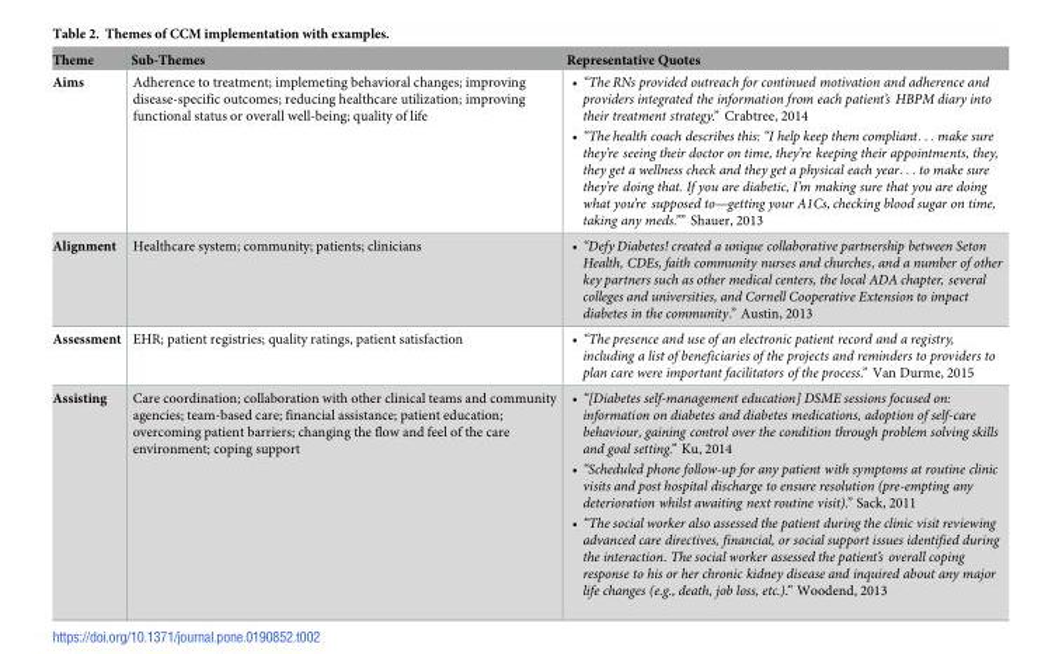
<table><thead><tr><td>Theme</td><td>Sub-Themes</td><td>Representative Quotes</td></tr></thead><tbody><tr><td>Aims</td><td>Adherence to treatment; implemeting behavioral changes; improving disease-specific outcomes; reducing healthcare utilization; improving functional status or overall well-being; quality of life</td><td>• “The RNs provided outreach for continued motivation and adherence and providers integrated the information from each patient’s HBPM diary into their treatment strategy.” Crabtree, 2014 • “The health coach describes this: “I help keep them compliant. . . make sure they’re seeing their doctor on time, they’re keeping their appointments, they, they get a wellness check and they get a physical each year. . . to make sure they’re doing that. If you are diabetic, I’m making sure that you are doing what you’re supposed to—getting your A1Cs, checking blood sugar on time, taking any meds.”” Shauer, 2013</td></tr><tr><td>Alignment</td><td>Healthcare system; community; patients; clinicians</td><td>• “Defy Diabetes! created a unique collaborative partnership between Seton Health, CDEs, faith community nurses and churches, and a number of other key partners such as other medical centers, the local ADA chapter, several colleges and universities, and Cornell Cooperative Extension to impact diabetes in the community.” Austin, 2013</td></tr><tr><td>Assessment</td><td>EHR; patient registries; quality ratings, patient satisfaction</td><td>• “The presence and use of an electronic patient record and a registry, including a list of beneficiaries of the projects and reminders to providers to plan care were important facilitators of the process.” Van Durme, 2015</td></tr><tr><td>Assisting</td><td>Care coordination; collaboration with other clinical teams and community agencies; team-based care; financial assistance; patient education; overcoming patient barriers; changing the flow and feel of the care environment; coping support</td><td>• “[Diabetes self-management education] DSME sessions focused on: information on diabetes and diabetes medications, adoption of self-care behaviour, gaining control over the condition through problem solving skills and goal setting.” Ku, 2014 • “Scheduled phone follow-up for any patient with symptoms at routine clinic visits and post hospital discharge to ensure resolution (pre-empting any deterioration whilst awaiting next routine visit).” Sack, 2011 • “The social worker also assessed the patient during the clinic visit reviewing advanced care directives, financial, or social support issues identified during the interaction. The social worker assessed the patient’s overall coping response to his or her chronic kidney disease and inquired about any major life changes (e.g., death, job loss, etc.).” Woodend, 2013</td></tr></tbody></table>